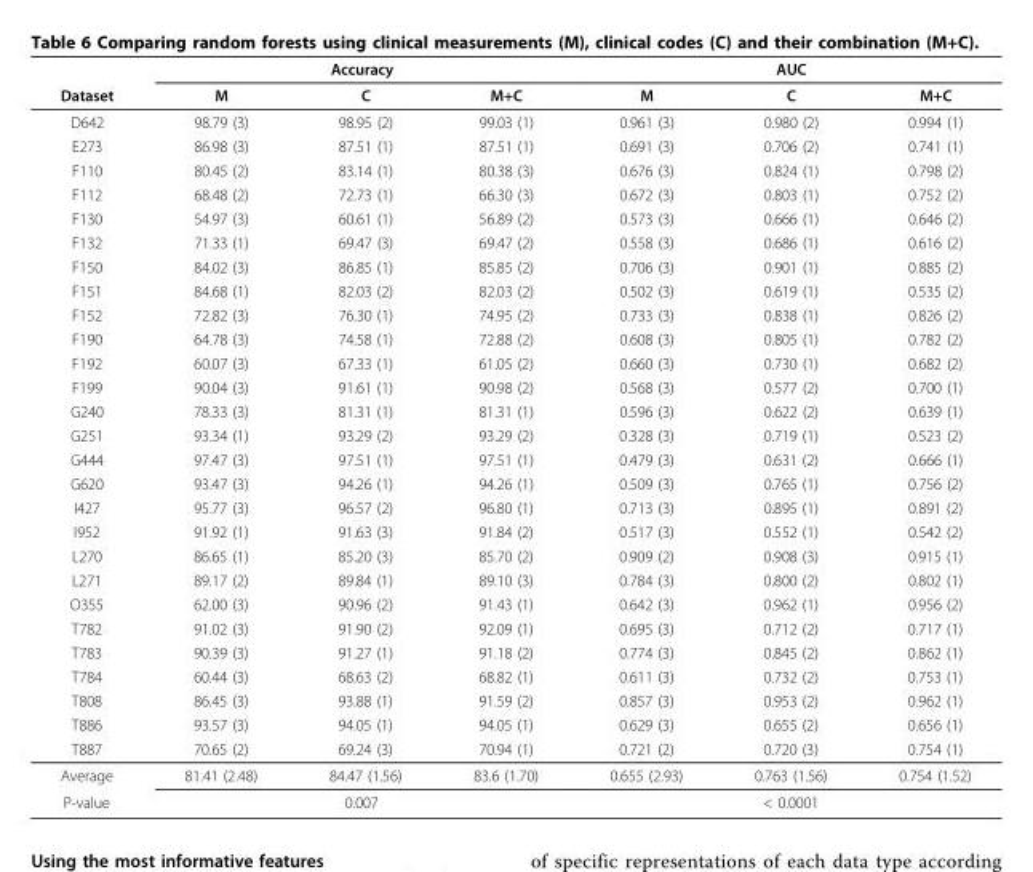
<table><thead><tr><td rowspan="2">Dataset</td><td colspan="3">Accuracy</td><td colspan="3">AUC</td></tr><tr><td>M</td><td>C</td><td>M+C</td><td>M</td><td>C</td><td>M+C</td></tr></thead><tbody><tr><td>D642</td><td>98.79 (3)</td><td>98.95 (2)</td><td>99.03 (1)</td><td>0.961 (3)</td><td>0.980 (2)</td><td>0.994 (1)</td></tr><tr><td>E273</td><td>86.98 (3)</td><td>87.51 (1)</td><td>87.51 (1)</td><td>0.691 (3)</td><td>0.706 (2)</td><td>0.741 (1)</td></tr><tr><td>F110</td><td>80.45 (2)</td><td>83.14 (1)</td><td>80.38 (3)</td><td>0.676 (3)</td><td>0.824 (1)</td><td>0.798 (2)</td></tr><tr><td>F112</td><td>68.48 (2)</td><td>72.73 (1)</td><td>66.30 (3)</td><td>0.672 (3)</td><td>0.803 (1)</td><td>0.752 (2)</td></tr><tr><td>F130</td><td>54.97 (3)</td><td>60.61 (1)</td><td>56.89 (2)</td><td>0.573 (3)</td><td>0.666 (1)</td><td>0.646 (2)</td></tr><tr><td>F132</td><td>71.33 (1)</td><td>69.47 (3)</td><td>69.47 (2)</td><td>0.558 (3)</td><td>0.686 (1)</td><td>0.616 (2)</td></tr><tr><td>F150</td><td>84.02 (3)</td><td>86.85 (1)</td><td>85.85 (2)</td><td>0.706 (3)</td><td>0.901 (1)</td><td>0.885 (2)</td></tr><tr><td>F151</td><td>84.68 (1)</td><td>82.03 (2)</td><td>82.03 (2)</td><td>0.502 (3)</td><td>0.619 (1)</td><td>0.535 (2)</td></tr><tr><td>F152</td><td>72.82 (3)</td><td>76.30 (1)</td><td>74.95 (2)</td><td>0.733 (3)</td><td>0.838 (1)</td><td>0.826 (2)</td></tr><tr><td>F190</td><td>64.78 (3)</td><td>74.58 (1)</td><td>72.88 (2)</td><td>0.608 (3)</td><td>0.805 (1)</td><td>0.782 (2)</td></tr><tr><td>F192</td><td>60.07 (3)</td><td>67.33 (1)</td><td>61.05 (2)</td><td>0.660 (3)</td><td>0.730 (1)</td><td>0.682 (2)</td></tr><tr><td>F199</td><td>90.04 (3)</td><td>91.61 (1)</td><td>90.98 (2)</td><td>0.568 (3)</td><td>0.577 (2)</td><td>0.700 (1)</td></tr><tr><td>G240</td><td>78.33 (3)</td><td>81.31 (1)</td><td>81.31 (1)</td><td>0.596 (3)</td><td>0.622 (2)</td><td>0.639 (1)</td></tr><tr><td>G251</td><td>93.34 (1)</td><td>93.29 (2)</td><td>93.29 (2)</td><td>0.328 (3)</td><td>0.719 (1)</td><td>0.523 (2)</td></tr><tr><td>G444</td><td>97.47 (3)</td><td>97.51 (1)</td><td>97.51 (1)</td><td>0.479 (3)</td><td>0.631 (2)</td><td>0.666 (1)</td></tr><tr><td>G620</td><td>93.47 (3)</td><td>94.26 (1)</td><td>94.26 (1)</td><td>0.509 (3)</td><td>0.765 (1)</td><td>0.756 (2)</td></tr><tr><td>I427</td><td>95.77 (3)</td><td>96.57 (2)</td><td>96.80 (1)</td><td>0.713 (3)</td><td>0.895 (1)</td><td>0.891 (2)</td></tr><tr><td>I952</td><td>91.92 (1)</td><td>91.63 (3)</td><td>91.84 (2)</td><td>0.517 (3)</td><td>0.552 (1)</td><td>0.542 (2)</td></tr><tr><td>L270</td><td>86.65 (1)</td><td>85.20 (3)</td><td>85.70 (2)</td><td>0.909 (2)</td><td>0.908 (3)</td><td>0.915 (1)</td></tr><tr><td>L271</td><td>89.17 (2)</td><td>89.84 (1)</td><td>89.10 (3)</td><td>0.784 (3)</td><td>0.800 (2)</td><td>0.802 (1)</td></tr><tr><td>O355</td><td>62.00 (3)</td><td>90.96 (2)</td><td>91.43 (1)</td><td>0.642 (3)</td><td>0.962 (1)</td><td>0.956 (2)</td></tr><tr><td>T782</td><td>91.02 (3)</td><td>91.90 (2)</td><td>92.09 (1)</td><td>0.695 (3)</td><td>0.712 (2)</td><td>0.717 (1)</td></tr><tr><td>T783</td><td>90.39 (3)</td><td>91.27 (1)</td><td>91.18 (2)</td><td>0.774 (3)</td><td>0.845 (2)</td><td>0.862 (1)</td></tr><tr><td>T784</td><td>60.44 (3)</td><td>68.63 (2)</td><td>68.82 (1)</td><td>0.611 (3)</td><td>0.732 (2)</td><td>0.753 (1)</td></tr><tr><td>T808</td><td>86.45 (3)</td><td>93.88 (1)</td><td>91.59 (2)</td><td>0.857 (3)</td><td>0.953 (2)</td><td>0.962 (1)</td></tr><tr><td>T886</td><td>93.57 (3)</td><td>94.05 (1)</td><td>94.05 (1)</td><td>0.629 (3)</td><td>0.655 (2)</td><td>0.656 (1)</td></tr><tr><td>T887</td><td>70.65 (2)</td><td>69.24 (3)</td><td>70.94 (1)</td><td>0.721 (2)</td><td>0.720 (3)</td><td>0.754 (1)</td></tr><tr><td>Average</td><td>81.41 (2.48)</td><td>84.47 (1.56)</td><td>83.6 (1.70)</td><td>0.655 (2.93)</td><td>0.763 (1.56)</td><td>0.754 (1.52)</td></tr><tr><td>P-value</td><td colspan="3">0.007</td><td colspan="3">&lt; 0.0001</td></tr></tbody></table>